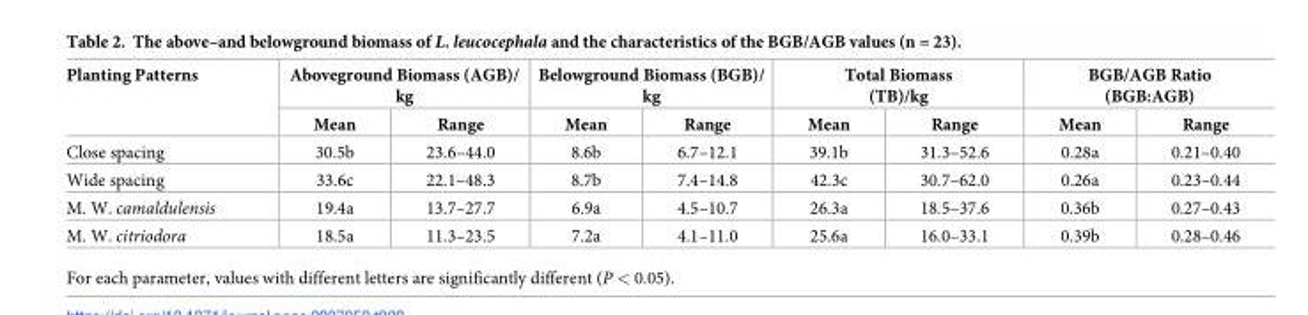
<table><thead><tr><td rowspan="2">Planting Patterns</td><td colspan="2">Aboveground Biomass (AGB)/ kg</td><td colspan="2">Belowground Biomass (BGB)/ kg</td><td colspan="2">Total Biomass (TB)/kg</td><td colspan="2">BGB/AGB Ratio (BGB:AGB)</td></tr><tr><td>Mean</td><td>Range</td><td>Mean</td><td>Range</td><td>Mean</td><td>Range</td><td>Mean</td><td>Range</td></tr></thead><tbody><tr><td>Close spacing</td><td>30.5b</td><td>23.6–44.0</td><td>8.6b</td><td>6.7–12.1</td><td>39.1b</td><td>31.3–52.6</td><td>0.28a</td><td>0.21–0.40</td></tr><tr><td>Wide spacing</td><td>33.6c</td><td>22.1–48.3</td><td>8.7b</td><td>7.4–14.8</td><td>42.3c</td><td>30.7–62.0</td><td>0.26a</td><td>0.23–0.44</td></tr><tr><td>M. W. camaldulensis</td><td>19.4a</td><td>13.7–27.7</td><td>6.9a</td><td>4.5–10.7</td><td>26.3a</td><td>18.5–37.6</td><td>0.36b</td><td>0.27–0.43</td></tr><tr><td>M. W. citriodora</td><td>18.5a</td><td>11.3–23.5</td><td>7.2a</td><td>4.1–11.0</td><td>25.6a</td><td>16.0–33.1</td><td>0.39b</td><td>0.28–0.46</td></tr></tbody></table>